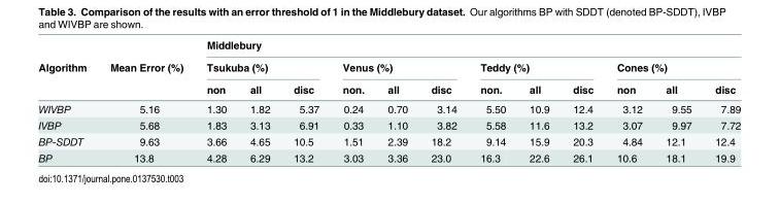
<table><thead><tr><td rowspan="3">Algorithm</td><td rowspan="3">Mean Error (%)</td><td colspan="12">Middlebury</td></tr><tr><td colspan="3">Tsukuba (%)</td><td colspan="3">Venus (%)</td><td colspan="3">Teddy (%)</td><td colspan="3">Cones (%)</td></tr><tr><td>non</td><td>all</td><td>disc</td><td>non.</td><td>all</td><td>disc</td><td>non.</td><td>all</td><td>disc</td><td>non</td><td>all</td><td>disc</td></tr></thead><tbody><tr><td>WIVBP</td><td>5.16</td><td>1.30</td><td>1.82</td><td>5.37</td><td>0.24</td><td>0.70</td><td>3.14</td><td>5.50</td><td>10.9</td><td>12.4</td><td>3.12</td><td>9.55</td><td>7.89</td></tr><tr><td>IVBP</td><td>5.68</td><td>1.83</td><td>3.13</td><td>6.91</td><td>0.33</td><td>1.10</td><td>3.82</td><td>5.58</td><td>11.6</td><td>13.2</td><td>3.07</td><td>9.97</td><td>7.72</td></tr><tr><td>BP-SDDT</td><td>9.63</td><td>3.66</td><td>4.65</td><td>10.5</td><td>1.51</td><td>2.39</td><td>18.2</td><td>9.14</td><td>15.9</td><td>20.3</td><td>4.84</td><td>12.1</td><td>12.4</td></tr><tr><td>BP</td><td>13.8</td><td>4.28</td><td>6.29</td><td>13.2</td><td>3.03</td><td>3.36</td><td>23.0</td><td>16.3</td><td>22.6</td><td>26.1</td><td>10.6</td><td>18.1</td><td>19.9</td></tr></tbody></table>